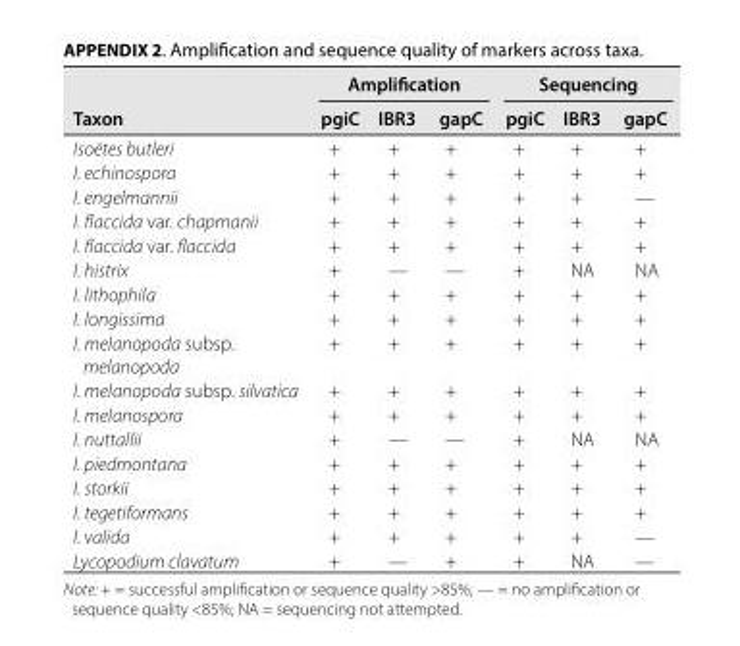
<table><thead><tr><td rowspan="2">Taxon</td><td colspan="3">Amplification</td><td colspan="3">Sequencing</td></tr><tr><td>pgiC</td><td>IBR3</td><td>gapC</td><td>pgiC</td><td>IBR3</td><td>gapC</td></tr></thead><tbody><tr><td>Isoëtes butleri</td><td>+</td><td>+</td><td>+</td><td>+</td><td>+</td><td>+</td></tr><tr><td>I. echinospora</td><td>+</td><td>+</td><td>+</td><td>+</td><td>+</td><td>+</td></tr><tr><td>I. engelmannii</td><td>+</td><td>+</td><td>+</td><td>+</td><td>+</td><td>—</td></tr><tr><td>I. flaccida var. chapmanii</td><td>+</td><td>+</td><td>+</td><td>+</td><td>+</td><td>+</td></tr><tr><td>I. flaccida var. flaccida</td><td>+</td><td>+</td><td>+</td><td>+</td><td>+</td><td>+</td></tr><tr><td>I. histrix</td><td>+</td><td>—</td><td>—</td><td>+</td><td>NA</td><td>NA</td></tr><tr><td>I. lithophila</td><td>+</td><td>+</td><td>+</td><td>+</td><td>+</td><td>+</td></tr><tr><td>I. longissima</td><td>+</td><td>+</td><td>+</td><td>+</td><td>+</td><td>+</td></tr><tr><td>I. melanopoda subsp. melanopoda</td><td>+</td><td>+</td><td>+</td><td>+</td><td>+</td><td>+</td></tr><tr><td>I. melanopoda subsp. silvatica</td><td>+</td><td>+</td><td>+</td><td>+</td><td>+</td><td>+</td></tr><tr><td>I. melanospora</td><td>+</td><td>+</td><td>+</td><td>+</td><td>+</td><td>+</td></tr><tr><td>I. nuttallii</td><td>+</td><td>—</td><td>—</td><td>+</td><td>NA</td><td>NA</td></tr><tr><td>I. piedmontana</td><td>+</td><td>+</td><td>+</td><td>+</td><td>+</td><td>+</td></tr><tr><td>I. storkii</td><td>+</td><td>+</td><td>+</td><td>+</td><td>+</td><td>+</td></tr><tr><td>I. tegetiformans</td><td>+</td><td>+</td><td>+</td><td>+</td><td>+</td><td>+</td></tr><tr><td>I. valida</td><td>+</td><td>+</td><td>+</td><td>+</td><td>+</td><td>—</td></tr><tr><td>Lycopodium clavatum</td><td>+</td><td>—</td><td>+</td><td>+</td><td>NA</td><td>—</td></tr></tbody></table>